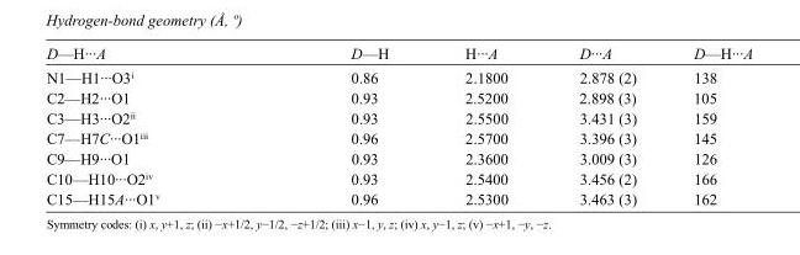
<table><tbody><tr><td>D—H···A</td><td>D—H</td><td>H···A</td><td>D···A</td><td>D—H···A</td></tr><tr><td>N1—H1···O3<sup>i</sup></td><td>0.86</td><td>2.1800</td><td>2.878 (2)</td><td>138</td></tr><tr><td>C2—H2···O1</td><td>0.93</td><td>2.5200</td><td>2.898 (3)</td><td>105</td></tr><tr><td>C3—H3···O2<sup>ii</sup></td><td>0.93</td><td>2.5500</td><td>3.431 (3)</td><td>159</td></tr><tr><td>C7—H7C···O1<sup>iii</sup></td><td>0.96</td><td>2.5700</td><td>3.396 (3)</td><td>145</td></tr><tr><td>C9—H9···O1</td><td>0.93</td><td>2.3600</td><td>3.009 (3)</td><td>126</td></tr><tr><td>C10—H10···O2<sup>iv</sup></td><td>0.93</td><td>2.5400</td><td>3.456 (2)</td><td>166</td></tr><tr><td>C15—H15A···O1<sup>v</sup></td><td>0.96</td><td>2.5300</td><td>3.463 (3)</td><td>162</td></tr></tbody></table>